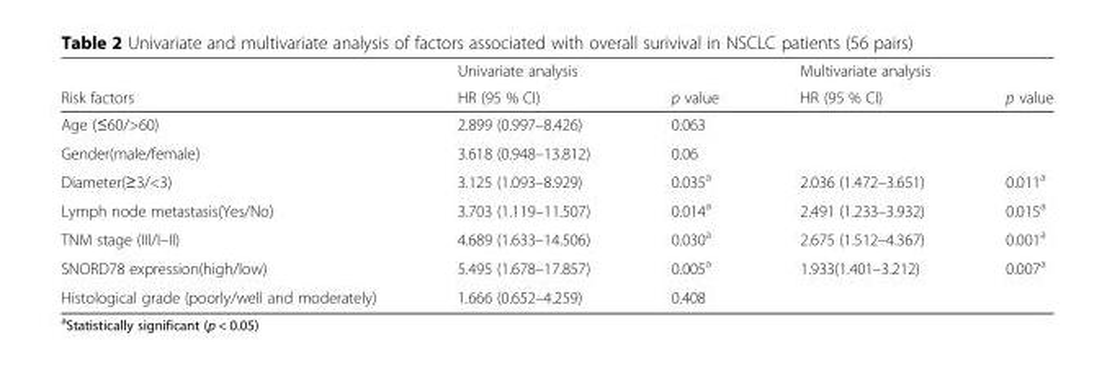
<table><thead><tr><td rowspan="2">Risk factors</td><td colspan="2">Univariate analysis</td><td colspan="2">Multivariate analysis</td></tr><tr><td>HR (95 % CI)</td><td>p value</td><td>HR (95 % CI)</td><td>p value</td></tr></thead><tbody><tr><td>Age (≤60/&gt;60)</td><td>2.899 (0.997–8.426)</td><td>0.063</td><td></td><td></td></tr><tr><td>Gender(male/female)</td><td>3.618 (0.948–13.812)</td><td>0.06</td><td></td><td></td></tr><tr><td>Diameter(≥3/&lt;3)</td><td>3.125 (1.093–8.929)</td><td>0.035<sup>a</sup></td><td>2.036 (1.472–3.651)</td><td>0.011<sup>a</sup></td></tr><tr><td>Lymph node metastasis(Yes/No)</td><td>3.703 (1.119–11.507)</td><td>0.014<sup>a</sup></td><td>2.491 (1.233–3.932)</td><td>0.015<sup>a</sup></td></tr><tr><td>TNM stage (III/I–II)</td><td>4.689 (1.633–14.506)</td><td>0.030<sup>a</sup></td><td>2.675 (1.512–4.367)</td><td>0.001<sup>a</sup></td></tr><tr><td>SNORD78 expression(high/low)</td><td>5.495 (1.678–17.857)</td><td>0.005<sup>a</sup></td><td>1.933(1.401–3.212)</td><td>0.007<sup>a</sup></td></tr><tr><td>Histological grade (poorly/well and moderately)</td><td>1.666 (0.652–4.259)</td><td>0.408</td><td></td><td></td></tr></tbody></table>